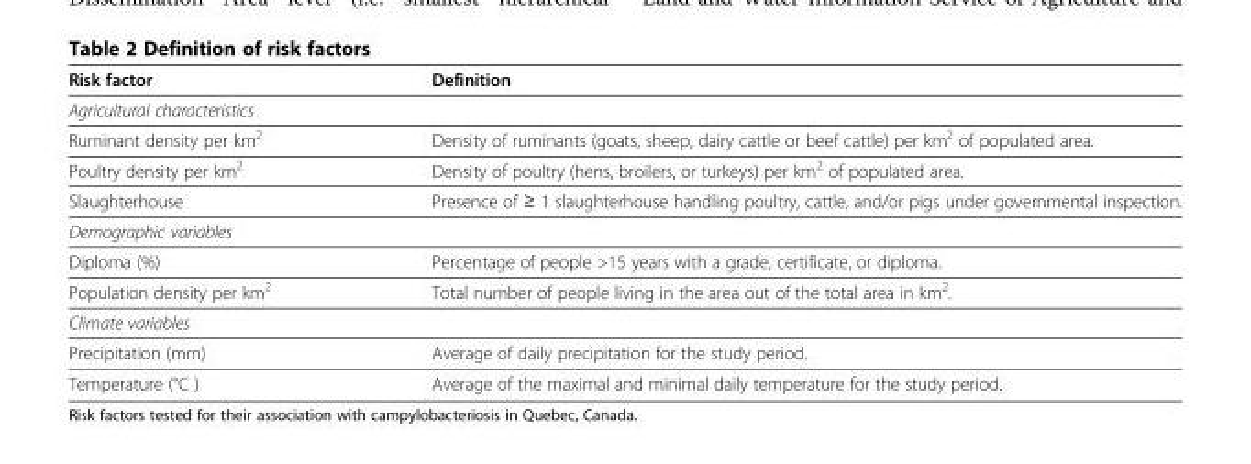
<table><thead><tr><td>Risk factor</td><td>Definition</td></tr></thead><tbody><tr><td colspan="2">Agricultural characteristics</td></tr><tr><td>Ruminant density per km<sup>2</sup></td><td>Density of ruminants (goats, sheep, dairy cattle or beef cattle) per km<sup>2</sup> of populated area.</td></tr><tr><td>Poultry density per km<sup>2</sup></td><td>Density of poultry (hens, broilers, or turkeys) per km<sup>2</sup> of populated area.</td></tr><tr><td>Slaughterhouse</td><td>Presence of ≥ 1 slaughterhouse handling poultry, cattle, and/or pigs under governmental inspection.</td></tr><tr><td colspan="2">Demographic variables</td></tr><tr><td>Diploma (%)</td><td>Percentage of people &gt;15 years with a grade, certificate, or diploma.</td></tr><tr><td>Population density per km<sup>2</sup></td><td>Total number of people living in the area out of the total area in km<sup>2</sup>.</td></tr><tr><td colspan="2">Climate variables</td></tr><tr><td>Precipitation (mm)</td><td>Average of daily precipitation for the study period.</td></tr><tr><td>Temperature (°C )</td><td>Average of the maximal and minimal daily temperature for the study period.</td></tr></tbody></table>